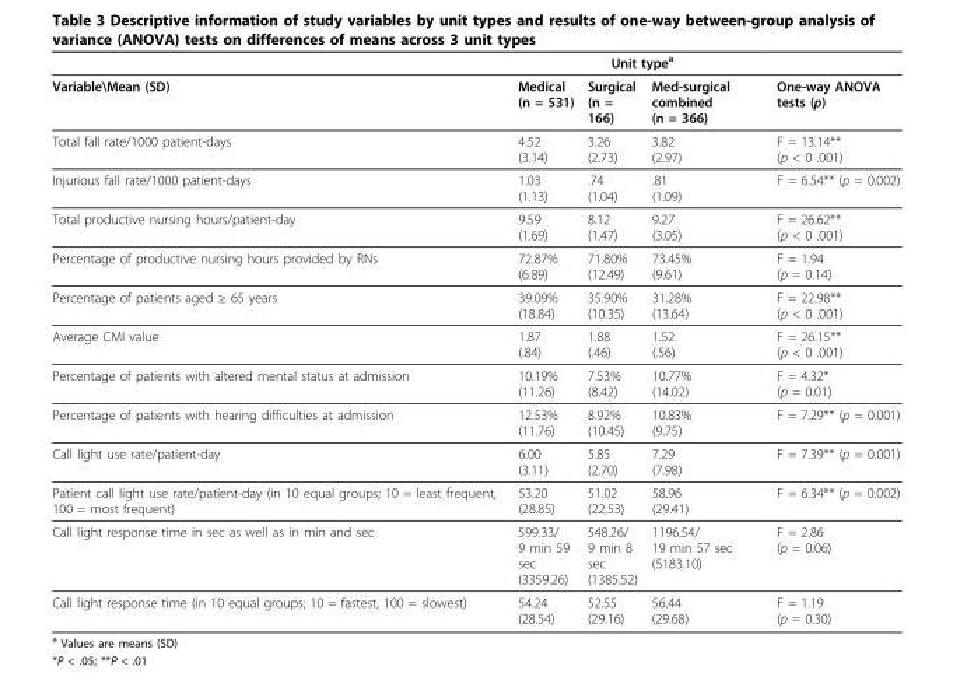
<table><thead><tr><td rowspan="2">Variable\Mean (SD)</td><td colspan="3">Unit type<sup>a</sup></td><td rowspan="2">One-way ANOVA tests (p)</td></tr><tr><td>Medical (n = 531)</td><td>Surgical (n = 166)</td><td>Med-surgical combined (n = 366)</td></tr></thead><tbody><tr><td>Total fall rate/1000 patient-days</td><td>4.52 (3.14)</td><td>3.26 (2.73)</td><td>3.82 (2.97)</td><td>F = 13.14** (p &lt; 0 .001)</td></tr><tr><td>Injurious fall rate/1000 patient-days</td><td>1.03 (1.13)</td><td>.74 (1.04)</td><td>.81 (1.09)</td><td>F = 6.54** (p = 0.002)</td></tr><tr><td>Total productive nursing hours/patient-day</td><td>9.59 (1.69)</td><td>8.12 (1.47)</td><td>9.27 (3.05)</td><td>F = 26.62** (p &lt; 0 .001)</td></tr><tr><td>Percentage of productive nursing hours provided by RNs</td><td>72.87% (6.89)</td><td>71.80% (12.49)</td><td>73.45% (9.61)</td><td>F = 1.94 (p = 0.14)</td></tr><tr><td>Percentage of patients aged ≥ 65 years</td><td>39.09% (18.84)</td><td>35.90% (10.35)</td><td>31.28% (13.64)</td><td>F = 22.98** (p &lt; 0 .001)</td></tr><tr><td>Average CMI value</td><td>1.87 (.84)</td><td>1.88 (.46)</td><td>1.52 (.56)</td><td>F = 26.15** (p &lt; 0 .001)</td></tr><tr><td>Percentage of patients with altered mental status at admission</td><td>10.19% (11.26)</td><td>7.53% (8.42)</td><td>10.77% (14.02)</td><td>F = 4.32* (p = 0.01)</td></tr><tr><td>Percentage of patients with hearing difficulties at admission</td><td>12.53% (11.76)</td><td>8.92% (10.45)</td><td>10.83% (9.75)</td><td>F = 7.29** (p = 0.001)</td></tr><tr><td>Call light use rate/patient-day</td><td>6.00 (3.11)</td><td>5.85 (2.70)</td><td>7.29 (7.98)</td><td>F = 7.39** (p = 0.001)</td></tr><tr><td>Patient call light use rate/patient-day (in 10 equal groups; 10 = least frequent, 100 = most frequent)</td><td>53.20 (28.85)</td><td>51.02 (22.53)</td><td>58.96 (29.41)</td><td>F = 6.34** (p = 0.002)</td></tr><tr><td>Call light response time in sec as well as in min and sec</td><td>599.33/ 9 min 59 sec (3359.26)</td><td>548.26/ 9 min 8 sec (1385.52)</td><td>1196.54/ 19 min 57 sec (5183.10)</td><td>F = 2.86 (p = 0.06)</td></tr><tr><td>Call light response time (in 10 equal groups; 10 = fastest, 100 = slowest)</td><td>54.24 (28.54)</td><td>52.55 (29.16)</td><td>56.44 (29.68)</td><td>F = 1.19 (p = 0.30)</td></tr></tbody></table>